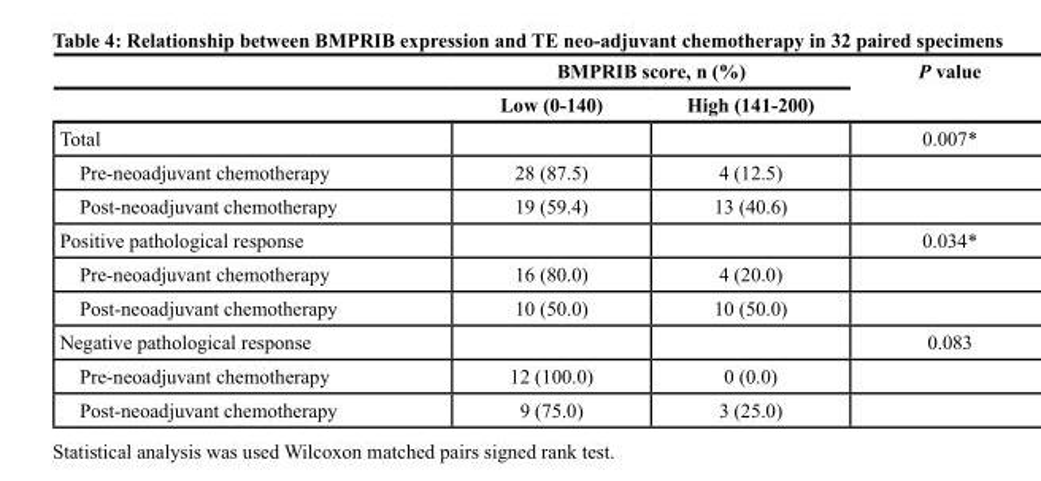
<table><thead><tr><td rowspan="2"></td><td colspan="2">BMPRIB score, n (%)</td><td rowspan="2">P value</td></tr><tr><td>Low (0-140)</td><td>High (141-200)</td></tr></thead><tbody><tr><td>Total</td><td></td><td></td><td>0.007*</td></tr><tr><td>Pre-neoadjuvant chemotherapy</td><td>28 (87.5)</td><td>4 (12.5)</td><td></td></tr><tr><td>Post-neoadjuvant chemotherapy</td><td>19 (59.4)</td><td>13 (40.6)</td><td></td></tr><tr><td>Positive pathological response</td><td></td><td></td><td>0.034*</td></tr><tr><td>Pre-neoadjuvant chemotherapy</td><td>16 (80.0)</td><td>4 (20.0)</td><td></td></tr><tr><td>Post-neoadjuvant chemotherapy</td><td>10 (50.0)</td><td>10 (50.0)</td><td></td></tr><tr><td>Negative pathological response</td><td></td><td></td><td>0.083</td></tr><tr><td>Pre-neoadjuvant chemotherapy</td><td>12 (100.0)</td><td>0 (0.0)</td><td></td></tr><tr><td>Post-neoadjuvant chemotherapy</td><td>9 (75.0)</td><td>3 (25.0)</td><td></td></tr></tbody></table>